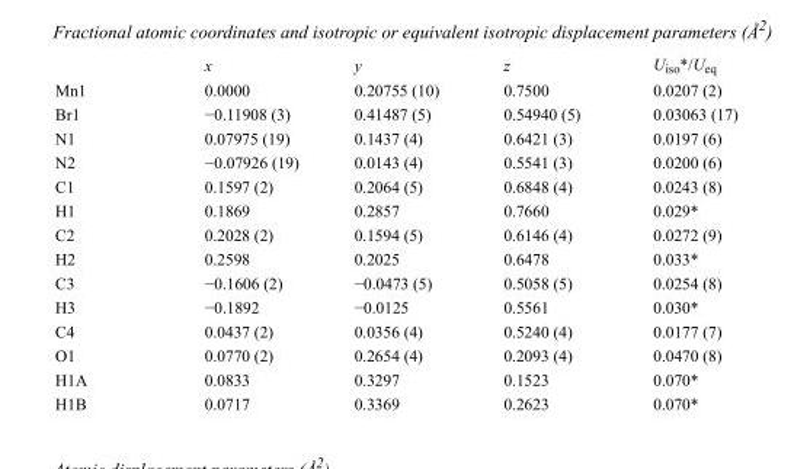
<table><thead><tr><td></td><td>x</td><td>y</td><td>z</td><td>U<sub>iso</sub>*/U<sub>eq</sub></td></tr></thead><tbody><tr><td>Mn1</td><td>0.0000</td><td>0.20755 (10)</td><td>0.7500</td><td>0.0207 (2)</td></tr><tr><td>Br1</td><td>−0.11908 (3)</td><td>0.41487 (5)</td><td>0.54940 (5)</td><td>0.03063 (17)</td></tr><tr><td>N1</td><td>0.07975 (19)</td><td>0.1437 (4)</td><td>0.6421 (3)</td><td>0.0197 (6)</td></tr><tr><td>N2</td><td>−0.07926 (19)</td><td>0.0143 (4)</td><td>0.5541 (3)</td><td>0.0200 (6)</td></tr><tr><td>C1</td><td>0.1597 (2)</td><td>0.2064 (5)</td><td>0.6848 (4)</td><td>0.0243 (8)</td></tr><tr><td>H1</td><td>0.1869</td><td>0.2857</td><td>0.7660</td><td>0.029*</td></tr><tr><td>C2</td><td>0.2028 (2)</td><td>0.1594 (5)</td><td>0.6146 (4)</td><td>0.0272 (9)</td></tr><tr><td>H2</td><td>0.2598</td><td>0.2025</td><td>0.6478</td><td>0.033*</td></tr><tr><td>C3</td><td>−0.1606 (2)</td><td>−0.0473 (5)</td><td>0.5058 (5)</td><td>0.0254 (8)</td></tr><tr><td>H3</td><td>−0.1892</td><td>−0.0125</td><td>0.5561</td><td>0.030*</td></tr><tr><td>C4</td><td>0.0437 (2)</td><td>0.0356 (4)</td><td>0.5240 (4)</td><td>0.0177 (7)</td></tr><tr><td>O1</td><td>0.0770 (2)</td><td>0.2654 (4)</td><td>0.2093 (4)</td><td>0.0470 (8)</td></tr><tr><td>H1A</td><td>0.0833</td><td>0.3297</td><td>0.1523</td><td>0.070*</td></tr><tr><td>H1B</td><td>0.0717</td><td>0.3369</td><td>0.2623</td><td>0.070*</td></tr></tbody></table>